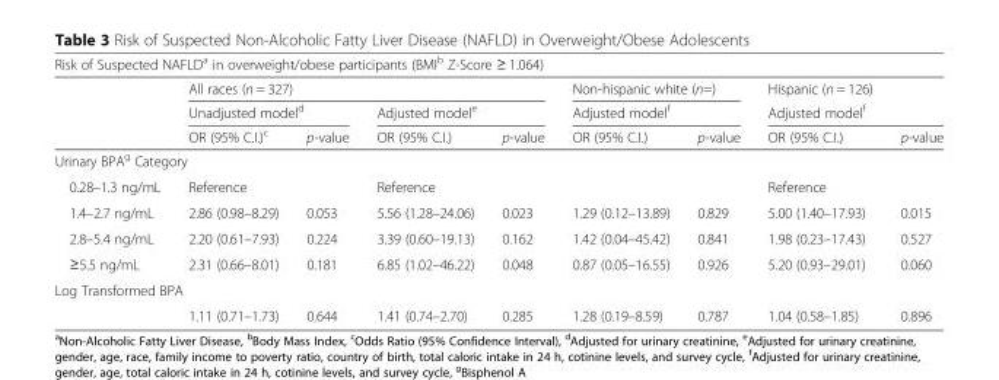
<table><thead><tr><td colspan="9">Risk of Suspected NAFLD<sup>a</sup> in overweight/obese participants (BMI<sup>b</sup> Z-Score ≥ 1.064)</td></tr><tr><td rowspan="3"></td><td colspan="4">All races (n = 327)</td><td rowspan="2" colspan="2">Non-hispanic white (n=) Adjusted model<sup>f</sup></td><td rowspan="3">Hispanic (n = 126) Adjusted model<sup>f</sup> OR (95% C.I.)</td><td rowspan="3">p-value</td></tr><tr><td colspan="2">Unadjusted model<sup>d</sup></td><td colspan="2">Adjusted model<sup>e</sup></td></tr><tr><td>OR (95% C.I.)<sup>c</sup></td><td>p-value</td><td>OR (95% C.I.)</td><td>p-value</td><td>OR (95% C.I.)</td><td>p-value</td></tr></thead><tbody><tr><td colspan="9">Urinary BPA<sup>g</sup> Category</td></tr><tr><td>0.28–1.3 ng/mL</td><td>Reference</td><td></td><td>Reference</td><td></td><td></td><td></td><td>Reference</td><td></td></tr><tr><td>1.4–2.7 ng/mL</td><td>2.86 (0.98–8.29)</td><td>0.053</td><td>5.56 (1.28–24.06)</td><td>0.023</td><td>1.29 (0.12–13.89)</td><td>0.829</td><td>5.00 (1.40–17.93)</td><td>0.015</td></tr><tr><td>2.8–5.4 ng/mL</td><td>2.20 (0.61–7.93)</td><td>0.224</td><td>3.39 (0.60–19.13)</td><td>0.162</td><td>1.42 (0.04–45.42)</td><td>0.841</td><td>1.98 (0.23–17.43)</td><td>0.527</td></tr><tr><td>≥5.5 ng/mL</td><td>2.31 (0.66–8.01)</td><td>0.181</td><td>6.85 (1.02–46.22)</td><td>0.048</td><td>0.87 (0.05–16.55)</td><td>0.926</td><td>5.20 (0.93–29.01)</td><td>0.060</td></tr><tr><td colspan="9">Log Transformed BPA</td></tr><tr><td></td><td>1.11 (0.71–1.73)</td><td>0.644</td><td>1.41 (0.74–2.70)</td><td>0.285</td><td>1.28 (0.19–8.59)</td><td>0.787</td><td>1.04 (0.58–1.85)</td><td>0.896</td></tr></tbody></table>